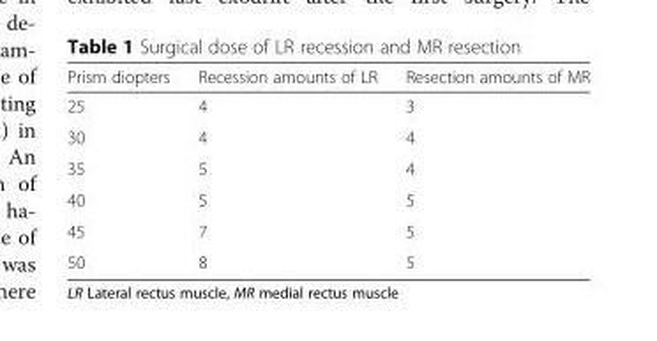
<table><thead><tr><td>Prism diopters</td><td>Recession amounts of LR</td><td>Resection amounts of MR</td></tr></thead><tbody><tr><td>25</td><td>4</td><td>3</td></tr><tr><td>30</td><td>4</td><td>4</td></tr><tr><td>35</td><td>5</td><td>4</td></tr><tr><td>40</td><td>5</td><td>5</td></tr><tr><td>45</td><td>7</td><td>5</td></tr><tr><td>50</td><td>8</td><td>5</td></tr></tbody></table>